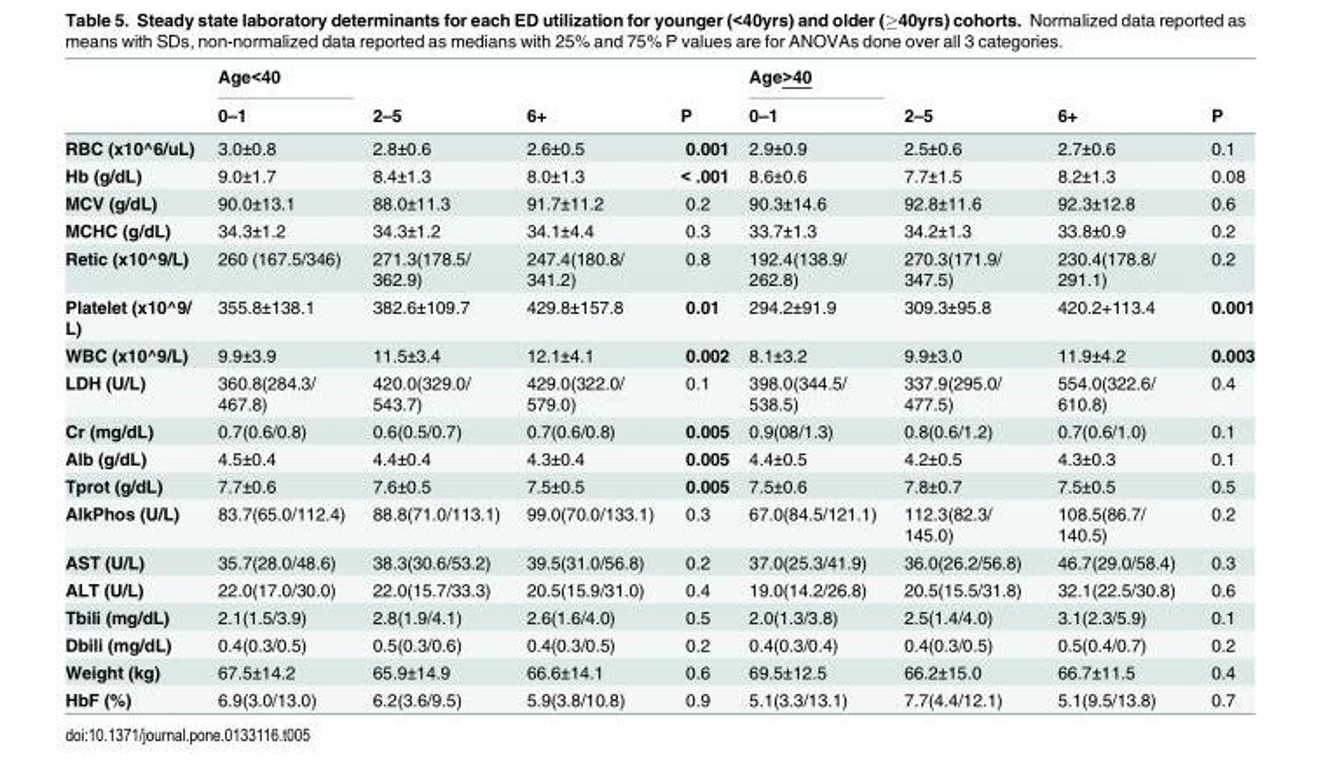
<table><thead><tr><td rowspan="2"></td><td rowspan="2">Age&lt;40 0–1</td><td rowspan="2">2–5</td><td rowspan="2">6+</td><td rowspan="2">P</td><td rowspan="2">Age&gt;40 0–1</td><td rowspan="2">2–5</td><td rowspan="2">6+</td><td rowspan="2">P</td></tr><tr></tr></thead><tbody><tr><td>RBC (x10^6/uL)</td><td>3.0±0.8</td><td>2.8±0.6</td><td>2.6±0.5</td><td>0.001</td><td>2.9±0.9</td><td>2.5±0.6</td><td>2.7±0.6</td><td>0.1</td></tr><tr><td>Hb (g/dL)</td><td>9.0±1.7</td><td>8.4±1.3</td><td>8.0±1.3</td><td>&lt; .001</td><td>8.6±0.6</td><td>7.7±1.5</td><td>8.2±1.3</td><td>0.08</td></tr><tr><td>MCV (g/dL)</td><td>90.0±13.1</td><td>88.0±11.3</td><td>91.7±11.2</td><td>0.2</td><td>90.3±14.6</td><td>92.8±11.6</td><td>92.3±12.8</td><td>0.6</td></tr><tr><td>MCHC (g/dL)</td><td>34.3±1.2</td><td>34.3±1.2</td><td>34.1±4.4</td><td>0.3</td><td>33.7±1.3</td><td>34.2±1.3</td><td>33.8±0.9</td><td>0.2</td></tr><tr><td>Retic (x10^9/L)</td><td>260 (167.5/346)</td><td>271.3(178.5/ 362.9)</td><td>247.4(180.8/ 341.2)</td><td>0.8</td><td>192.4(138.9/ 262.8)</td><td>270.3(171.9/ 347.5)</td><td>230.4(178.8/ 291.1)</td><td>0.2</td></tr><tr><td>Platelet (x10^9/ L)</td><td>355.8±138.1</td><td>382.6±109.7</td><td>429.8±157.8</td><td>0.01</td><td>294.2±91.9</td><td>309.3±95.8</td><td>420.2+113.4</td><td>0.001</td></tr><tr><td>WBC (x10^9/L)</td><td>9.9±3.9</td><td>11.5±3.4</td><td>12.1±4.1</td><td>0.002</td><td>8.1±3.2</td><td>9.9±3.0</td><td>11.9±4.2</td><td>0.003</td></tr><tr><td>LDH (U/L)</td><td>360.8(284.3/ 467.8)</td><td>420.0(329.0/ 543.7)</td><td>429.0(322.0/ 579.0)</td><td>0.1</td><td>398.0(344.5/ 538.5)</td><td>337.9(295.0/ 477.5)</td><td>554.0(322.6/ 610.8)</td><td>0.4</td></tr><tr><td>Cr (mg/dL)</td><td>0.7(0.6/0.8)</td><td>0.6(0.5/0.7)</td><td>0.7(0.6/0.8)</td><td>0.005</td><td>0.9(08/1.3)</td><td>0.8(0.6/1.2)</td><td>0.7(0.6/1.0)</td><td>0.1</td></tr><tr><td>Alb (g/dL)</td><td>4.5±0.4</td><td>4.4±0.4</td><td>4.3±0.4</td><td>0.005</td><td>4.4±0.5</td><td>4.2±0.5</td><td>4.3±0.3</td><td>0.1</td></tr><tr><td>Tprot (g/dL)</td><td>7.7±0.6</td><td>7.6±0.5</td><td>7.5±0.5</td><td>0.005</td><td>7.5±0.6</td><td>7.8±0.7</td><td>7.5±0.5</td><td>0.5</td></tr><tr><td>AlkPhos (U/L)</td><td>83.7(65.0/112.4)</td><td>88.8(71.0/113.1)</td><td>99.0(70.0/133.1)</td><td>0.3</td><td>67.0(84.5/121.1)</td><td>112.3(82.3/ 145.0)</td><td>108.5(86.7/ 140.5)</td><td>0.2</td></tr><tr><td>AST (U/L)</td><td>35.7(28.0/48.6)</td><td>38.3(30.6/53.2)</td><td>39.5(31.0/56.8)</td><td>0.2</td><td>37.0(25.3/41.9)</td><td>36.0(26.2/56.8)</td><td>46.7(29.0/58.4)</td><td>0.3</td></tr><tr><td>ALT (U/L)</td><td>22.0(17.0/30.0)</td><td>22.0(15.7/33.3)</td><td>20.5(15.9/31.0)</td><td>0.4</td><td>19.0(14.2/26.8)</td><td>20.5(15.5/31.8)</td><td>32.1(22.5/30.8)</td><td>0.6</td></tr><tr><td>Tbili (mg/dL)</td><td>2.1(1.5/3.9)</td><td>2.8(1.9/4.1)</td><td>2.6(1.6/4.0)</td><td>0.5</td><td>2.0(1.3/3.8)</td><td>2.5(1.4/4.0)</td><td>3.1(2.3/5.9)</td><td>0.1</td></tr><tr><td>Dbili (mg/dL)</td><td>0.4(0.3/0.5)</td><td>0.5(0.3/0.6)</td><td>0.4(0.3/0.5)</td><td>0.2</td><td>0.4(0.3/0.4)</td><td>0.4(0.3/0.5)</td><td>0.5(0.4/0.7)</td><td>0.2</td></tr><tr><td>Weight (kg)</td><td>67.5±14.2</td><td>65.9±14.9</td><td>66.6±14.1</td><td>0.6</td><td>69.5±12.5</td><td>66.2±15.0</td><td>66.7±11.5</td><td>0.4</td></tr><tr><td>HbF (%)</td><td>6.9(3.0/13.0)</td><td>6.2(3.6/9.5)</td><td>5.9(3.8/10.8)</td><td>0.9</td><td>5.1(3.3/13.1)</td><td>7.7(4.4/12.1)</td><td>5.1(9.5/13.8)</td><td>0.7</td></tr></tbody></table>